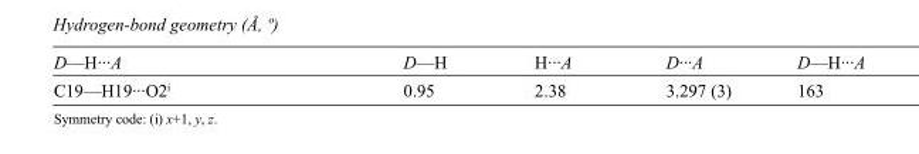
<table><tbody><tr><td>D—H···A</td><td>D—H</td><td>H···A</td><td>D···A</td><td>D—H···A</td></tr><tr><td>C19—H19···O2<sup>i</sup></td><td>0.95</td><td>2.38</td><td>3.297 (3)</td><td>163</td></tr></tbody></table>